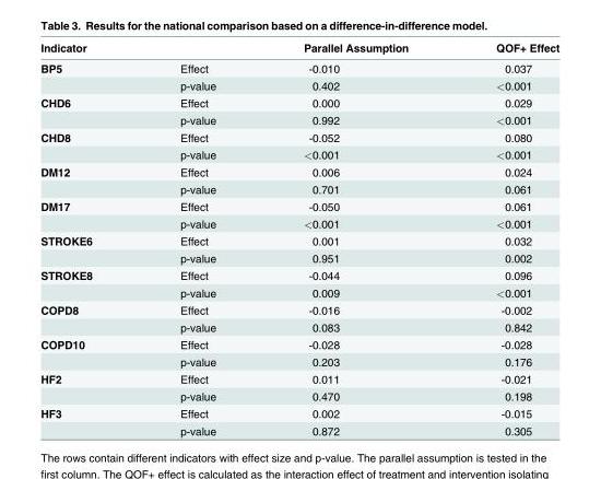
<table><thead><tr><td>Indicator</td><td></td><td>Parallel Assumption</td><td>QOF+ Effect</td></tr></thead><tbody><tr><td rowspan="2">BP5</td><td>Effect</td><td>-0.010</td><td>0.037</td></tr><tr><td>p-value</td><td>0.402</td><td>&lt;0.001</td></tr><tr><td rowspan="2">CHD6</td><td>Effect</td><td>0.000</td><td>0.029</td></tr><tr><td>p-value</td><td>0.992</td><td>&lt;0.001</td></tr><tr><td rowspan="2">CHD8</td><td>Effect</td><td>-0.052</td><td>0.080</td></tr><tr><td>p-value</td><td>&lt;0.001</td><td>&lt;0.001</td></tr><tr><td rowspan="2">DM12</td><td>Effect</td><td>0.006</td><td>0.024</td></tr><tr><td>p-value</td><td>0.701</td><td>0.061</td></tr><tr><td rowspan="2">DM17</td><td>Effect</td><td>-0.050</td><td>0.061</td></tr><tr><td>p-value</td><td>&lt;0.001</td><td>&lt;0.001</td></tr><tr><td rowspan="2">STROKE6</td><td>Effect</td><td>0.001</td><td>0.032</td></tr><tr><td>p-value</td><td>0.951</td><td>0.002</td></tr><tr><td rowspan="2">STROKE8</td><td>Effect</td><td>-0.044</td><td>0.096</td></tr><tr><td>p-value</td><td>0.009</td><td>&lt;0.001</td></tr><tr><td rowspan="2">COPD8</td><td>Effect</td><td>-0.016</td><td>-0.002</td></tr><tr><td>p-value</td><td>0.083</td><td>0.842</td></tr><tr><td rowspan="2">COPD10</td><td>Effect</td><td>-0.028</td><td>-0.028</td></tr><tr><td>p-value</td><td>0.203</td><td>0.176</td></tr><tr><td rowspan="2">HF2</td><td>Effect</td><td>0.011</td><td>-0.021</td></tr><tr><td>p-value</td><td>0.470</td><td>0.198</td></tr><tr><td rowspan="2">HF3</td><td>Effect</td><td>0.002</td><td>-0.015</td></tr><tr><td>p-value</td><td>0.872</td><td>0.305</td></tr></tbody></table>